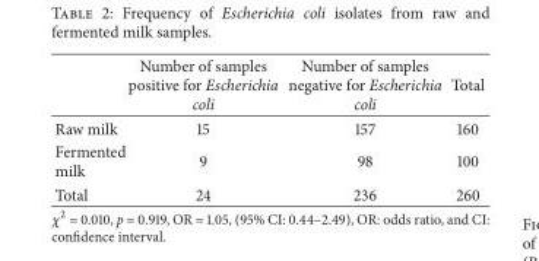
<table><thead><tr><td></td><td>Number of samples positive for Escherichia coli</td><td>Number of samples negative for Escherichia coli</td><td>Total</td></tr></thead><tbody><tr><td>Raw milk</td><td>15</td><td>157</td><td>160</td></tr><tr><td>Fermented milk</td><td>9</td><td>98</td><td>100</td></tr><tr><td>Total</td><td>24</td><td>236</td><td>260</td></tr></tbody></table>